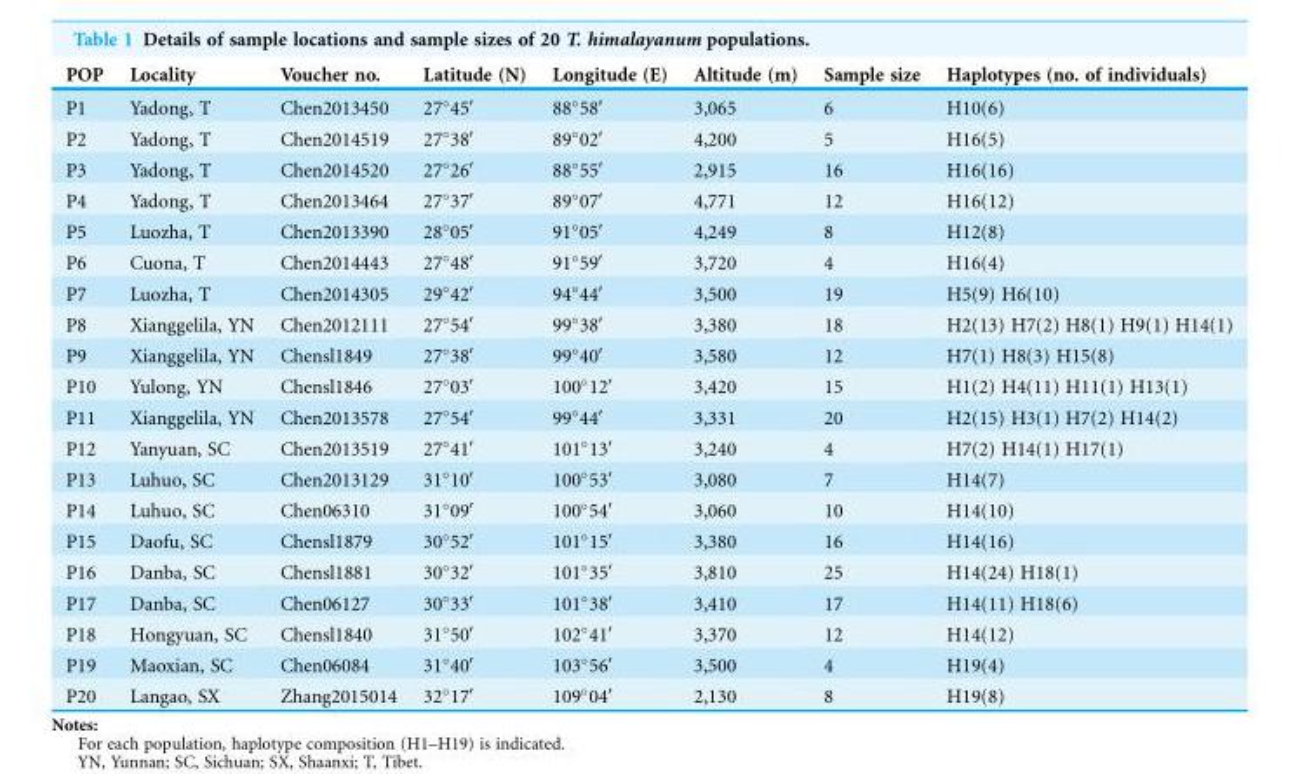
<table><thead><tr><td>POP</td><td>Locality</td><td>Voucher no.</td><td>Latitude (N)</td><td>Longitude (E)</td><td>Altitude (m)</td><td>Sample size</td><td>Haplotypes (no. of individuals)</td></tr></thead><tbody><tr><td>P1</td><td>Yadong, T</td><td>Chen2013450</td><td>27°45′</td><td>88°58′</td><td>3,065</td><td>6</td><td>H10(6)</td></tr><tr><td>P2</td><td>Yadong, T</td><td>Chen2014519</td><td>27°38′</td><td>89°02′</td><td>4,200</td><td>5</td><td>H16(5)</td></tr><tr><td>P3</td><td>Yadong, T</td><td>Chen2014520</td><td>27°26′</td><td>88°55′</td><td>2,915</td><td>16</td><td>H16(16)</td></tr><tr><td>P4</td><td>Yadong, T</td><td>Chen2013464</td><td>27°37′</td><td>89°07′</td><td>4,771</td><td>12</td><td>H16(12)</td></tr><tr><td>P5</td><td>Luozha, T</td><td>Chen2013390</td><td>28°05′</td><td>91°05′</td><td>4,249</td><td>8</td><td>H12(8)</td></tr><tr><td>P6</td><td>Cuona, T</td><td>Chen2014443</td><td>27°48′</td><td>91°59′</td><td>3,720</td><td>4</td><td>H16(4)</td></tr><tr><td>P7</td><td>Luozha, T</td><td>Chen2014305</td><td>29°42′</td><td>94°44′</td><td>3,500</td><td>19</td><td>H5(9) H6(10)</td></tr><tr><td>P8</td><td>Xianggelila, YN</td><td>Chen2012111</td><td>27°54′</td><td>99°38′</td><td>3,380</td><td>18</td><td>H2(13) H7(2) H8(1) H9(1) H14(1)</td></tr><tr><td>P9</td><td>Xianggelila, YN</td><td>Chensl1849</td><td>27°38′</td><td>99°40′</td><td>3,580</td><td>12</td><td>H7(1) H8(3) H15(8)</td></tr><tr><td>P10</td><td>Yulong, YN</td><td>Chensl1846</td><td>27°03′</td><td>100°12′</td><td>3,420</td><td>15</td><td>H1(2) H4(11) H11(1) H13(1)</td></tr><tr><td>P11</td><td>Xianggelila, YN</td><td>Chen2013578</td><td>27°54′</td><td>99°44′</td><td>3,331</td><td>20</td><td>H2(15) H3(1) H7(2) H14(2)</td></tr><tr><td>P12</td><td>Yanyuan, SC</td><td>Chen2013519</td><td>27°41′</td><td>101°13′</td><td>3,240</td><td>4</td><td>H7(2) H14(1) H17(1)</td></tr><tr><td>P13</td><td>Luhuo, SC</td><td>Chen2013129</td><td>31°10′</td><td>100°53′</td><td>3,080</td><td>7</td><td>H14(7)</td></tr><tr><td>P14</td><td>Luhuo, SC</td><td>Chen06310</td><td>31°09′</td><td>100°54′</td><td>3,060</td><td>10</td><td>H14(10)</td></tr><tr><td>P15</td><td>Daofu, SC</td><td>Chensl1879</td><td>30°52′</td><td>101°15′</td><td>3,380</td><td>16</td><td>H14(16)</td></tr><tr><td>P16</td><td>Danba, SC</td><td>Chensl1881</td><td>30°32′</td><td>101°35′</td><td>3,810</td><td>25</td><td>H14(24) H18(1)</td></tr><tr><td>P17</td><td>Danba, SC</td><td>Chen06127</td><td>30°33′</td><td>101°38′</td><td>3,410</td><td>17</td><td>H14(11) H18(6)</td></tr><tr><td>P18</td><td>Hongyuan, SC</td><td>Chensl1840</td><td>31°50′</td><td>102°41′</td><td>3,370</td><td>12</td><td>H14(12)</td></tr><tr><td>P19</td><td>Maoxian, SC</td><td>Chen06084</td><td>31°40′</td><td>103°56′</td><td>3,500</td><td>4</td><td>H19(4)</td></tr><tr><td>P20</td><td>Langao, SX</td><td>Zhang2015014</td><td>32°17′</td><td>109°04′</td><td>2,130</td><td>8</td><td>H19(8)</td></tr></tbody></table>